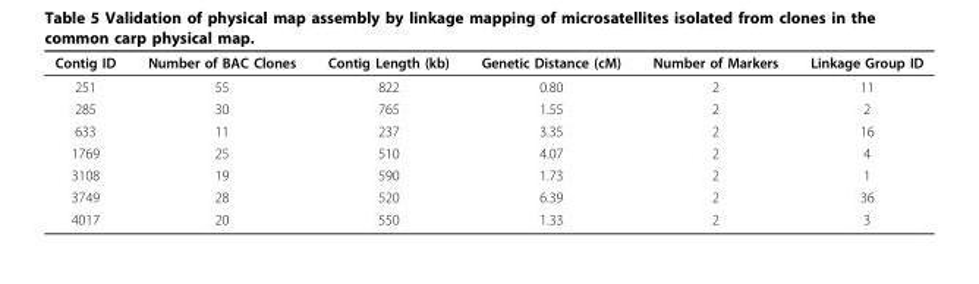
<table><thead><tr><td>Contig ID</td><td>Number of BAC Clones</td><td>Contig Length (kb)</td><td>Genetic Distance (cM)</td><td>Number of Markers</td><td>Linkage Group ID</td></tr></thead><tbody><tr><td>251</td><td>55</td><td>822</td><td>0.80</td><td>2</td><td>11</td></tr><tr><td>285</td><td>30</td><td>765</td><td>1.55</td><td>2</td><td>2</td></tr><tr><td>633</td><td>11</td><td>237</td><td>3.35</td><td>2</td><td>16</td></tr><tr><td>1769</td><td>25</td><td>510</td><td>4.07</td><td>2</td><td>4</td></tr><tr><td>3108</td><td>19</td><td>590</td><td>1.73</td><td>2</td><td>1</td></tr><tr><td>3749</td><td>28</td><td>520</td><td>6.39</td><td>2</td><td>36</td></tr><tr><td>4017</td><td>20</td><td>550</td><td>1.33</td><td>2</td><td>3</td></tr></tbody></table>